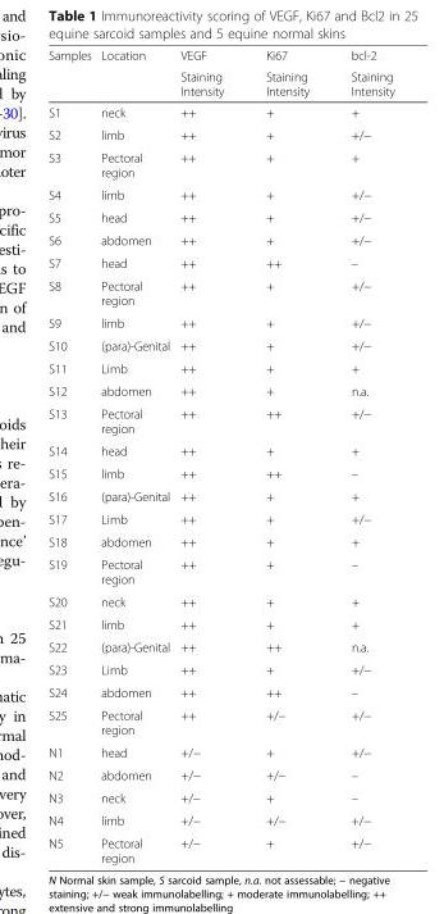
<table><thead><tr><td rowspan="2">Samples</td><td rowspan="2">Location</td><td rowspan="2">VEGF Staining Intensity</td><td rowspan="2">Ki67 Staining Intensity</td><td rowspan="2">bcl-2 Staining Intensity</td></tr><tr></tr></thead><tbody><tr><td>S1</td><td>neck</td><td>++</td><td>+</td><td>+</td></tr><tr><td>S2</td><td>limb</td><td>++</td><td>+</td><td>+/−</td></tr><tr><td>S3</td><td>Pectoral region</td><td>++</td><td>+</td><td>+</td></tr><tr><td>S4</td><td>limb</td><td>++</td><td>+</td><td>+/−</td></tr><tr><td>S5</td><td>head</td><td>++</td><td>+</td><td>+/−</td></tr><tr><td>S6</td><td>abdomen</td><td>++</td><td>+</td><td>+/−</td></tr><tr><td>S7</td><td>head</td><td>++</td><td>++</td><td>–</td></tr><tr><td>S8</td><td>Pectoral region</td><td>++</td><td>+</td><td>+/−</td></tr><tr><td>S9</td><td>limb</td><td>++</td><td>+</td><td>+/−</td></tr><tr><td>S10</td><td>(para)-Genital</td><td>++</td><td>+</td><td>+/−</td></tr><tr><td>S11</td><td>Limb</td><td>++</td><td>+</td><td>+</td></tr><tr><td>S12</td><td>abdomen</td><td>++</td><td>+</td><td>n.a.</td></tr><tr><td>S13</td><td>Pectoral region</td><td>++</td><td>++</td><td>+/−</td></tr><tr><td>S14</td><td>head</td><td>++</td><td>+</td><td>+</td></tr><tr><td>S15</td><td>limb</td><td>++</td><td>++</td><td>–</td></tr><tr><td>S16</td><td>(para)-Genital</td><td>++</td><td>+</td><td>+</td></tr><tr><td>S17</td><td>Limb</td><td>++</td><td>+</td><td>+/−</td></tr><tr><td>S18</td><td>abdomen</td><td>++</td><td>+</td><td>+</td></tr><tr><td>S19</td><td>Pectoral region</td><td>++</td><td>+</td><td>–</td></tr><tr><td>S20</td><td>neck</td><td>++</td><td>+</td><td>+</td></tr><tr><td>S21</td><td>limb</td><td>++</td><td>+</td><td>+</td></tr><tr><td>S22</td><td>(para)-Genital</td><td>++</td><td>++</td><td>n.a.</td></tr><tr><td>S23</td><td>Limb</td><td>++</td><td>+</td><td>+/−</td></tr><tr><td>S24</td><td>abdomen</td><td>++</td><td>++</td><td>–</td></tr><tr><td>S25</td><td>Pectoral region</td><td>++</td><td>+/−</td><td>+/−</td></tr><tr><td>N1</td><td>head</td><td>+/−</td><td>+</td><td>+/−</td></tr><tr><td>N2</td><td>abdomen</td><td>+/−</td><td>+/−</td><td>–</td></tr><tr><td>N3</td><td>neck</td><td>+/−</td><td>+</td><td>–</td></tr><tr><td>N4</td><td>limb</td><td>+/−</td><td>+/−</td><td>+/−</td></tr><tr><td>N5</td><td>Pectoral region</td><td>+/−</td><td>+</td><td>+/−</td></tr></tbody></table>